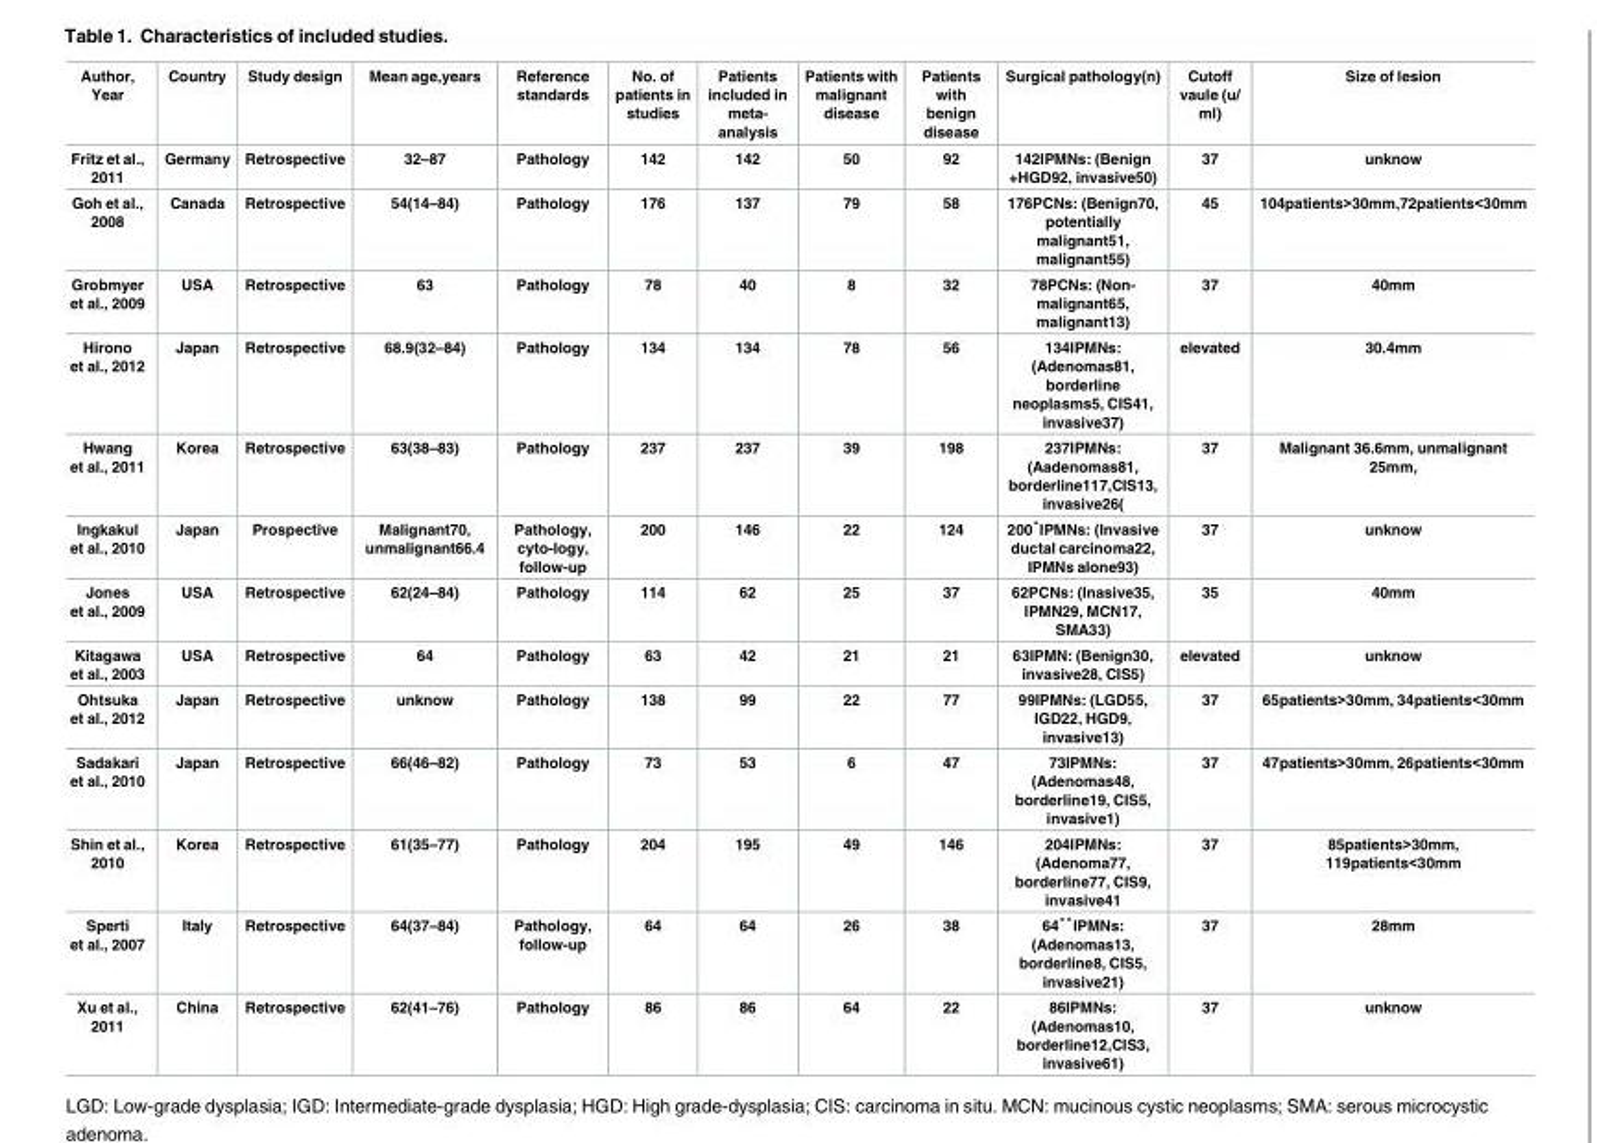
<table><thead><tr><td>Author, Year</td><td>Country</td><td>Study design</td><td>Mean age,years</td><td>Reference standards</td><td>No. of patients in studies</td><td>Patients included in meta- analysis</td><td>Patients with malignant disease</td><td>Patients with benign disease</td><td>Surgical pathology(n)</td><td>Cutoff vaule (u/ ml)</td><td>Size of lesion</td></tr></thead><tbody><tr><td>Fritz et al., 2011</td><td>Germany</td><td>Retrospective</td><td>32–87</td><td>Pathology</td><td>142</td><td>142</td><td>50</td><td>92</td><td>142IPMNs: (Benign +HGD92, invasive50)</td><td>37</td><td>unknow</td></tr><tr><td>Goh et al., 2008</td><td>Canada</td><td>Retrospective</td><td>54(14–84)</td><td>Pathology</td><td>176</td><td>137</td><td>79</td><td>58</td><td>176PCNs: (Benign70, potentially malignant51, malignant55)</td><td>45</td><td>104patients&gt;30mm,72patients&lt;30mm</td></tr><tr><td>Grobmyer et al., 2009</td><td>USA</td><td>Retrospective</td><td>63</td><td>Pathology</td><td>78</td><td>40</td><td>8</td><td>32</td><td>78PCNs: (Non- malignant65, malignant13)</td><td>37</td><td>40mm</td></tr><tr><td>Hirono et al., 2012</td><td>Japan</td><td>Retrospective</td><td>68.9(32–84)</td><td>Pathology</td><td>134</td><td>134</td><td>78</td><td>56</td><td>134IPMNs: (Adenomas81, borderline neoplasms5, CIS41, invasive37)</td><td>elevated</td><td>30.4mm</td></tr><tr><td>Hwang et al., 2011</td><td>Korea</td><td>Retrospective</td><td>63(38–83)</td><td>Pathology</td><td>237</td><td>237</td><td>39</td><td>198</td><td>237IPMNs: (Aadenomas81, borderline117,CIS13, invasive26(</td><td>37</td><td>Malignant 36.6mm, unmalignant 25mm,</td></tr><tr><td>Ingkakul et al., 2010</td><td>Japan</td><td>Prospective</td><td>Malignant70, unmalignant66.4</td><td>Pathology, cyto-logy, follow-up</td><td>200</td><td>146</td><td>22</td><td>124</td><td>200*IPMNs: (Invasive ductal carcinoma22, IPMNs alone93)</td><td>37</td><td>unknow</td></tr><tr><td>Jones et al., 2009</td><td>USA</td><td>Retrospective</td><td>62(24–84)</td><td>Pathology</td><td>114</td><td>62</td><td>25</td><td>37</td><td>62PCNs: (Inasive35, IPMN29, MCN17, SMA33)</td><td>35</td><td>40mm</td></tr><tr><td>Kitagawa et al., 2003</td><td>USA</td><td>Retrospective</td><td>64</td><td>Pathology</td><td>63</td><td>42</td><td>21</td><td>21</td><td>63IPMN: (Benign30, invasive28, CIS5)</td><td>elevated</td><td>unknow</td></tr><tr><td>Ohtsuka et al., 2012</td><td>Japan</td><td>Retrospective</td><td>unknow</td><td>Pathology</td><td>138</td><td>99</td><td>22</td><td>77</td><td>99IPMNs: (LGD55, IGD22, HGD9, invasive13)</td><td>37</td><td>65patients&gt;30mm, 34patients&lt;30mm</td></tr><tr><td>Sadakari et al., 2010</td><td>Japan</td><td>Retrospective</td><td>66(46–82)</td><td>Pathology</td><td>73</td><td>53</td><td>6</td><td>47</td><td>73IPMNs: (Adenomas48, borderline19, CIS5, invasive1)</td><td>37</td><td>47patients&gt;30mm, 26patients&lt;30mm</td></tr><tr><td>Shin et al., 2010</td><td>Korea</td><td>Retrospective</td><td>61(35–77)</td><td>Pathology</td><td>204</td><td>195</td><td>49</td><td>146</td><td>204IPMNs: (Adenoma77, borderline77, CIS9, invasive41</td><td>37</td><td>85patients&gt;30mm, 119patients&lt;30mm</td></tr><tr><td>Sperti et al., 2007</td><td>Italy</td><td>Retrospective</td><td>64(37–84)</td><td>Pathology, follow-up</td><td>64</td><td>64</td><td>26</td><td>38</td><td>64**IPMNs: (Adenomas13, borderline8, CIS5, invasive21)</td><td>37</td><td>28mm</td></tr><tr><td>Xu et al., 2011</td><td>China</td><td>Retrospective</td><td>62(41–76)</td><td>Pathology</td><td>86</td><td>86</td><td>64</td><td>22</td><td>86IPMNs: (Adenomas10, borderline12,CIS3, invasive61)</td><td>37</td><td>unknow</td></tr></tbody></table>